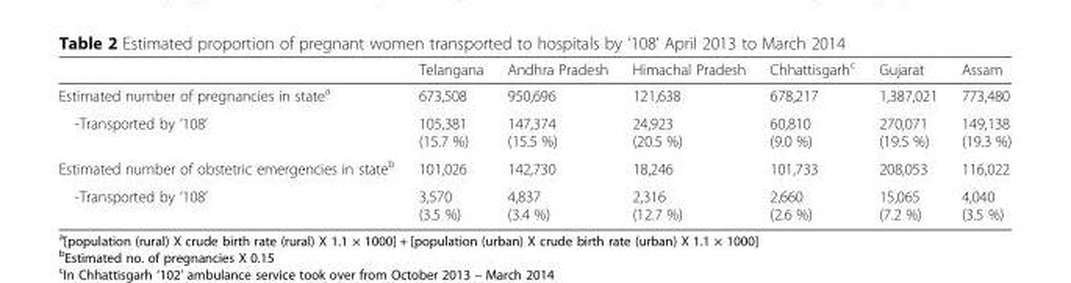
<table><thead><tr><td></td><td>Telangana</td><td>Andhra Pradesh</td><td>Himachal Pradesh</td><td>Chhattisgarh<sup>c</sup></td><td>Gujarat</td><td>Assam</td></tr></thead><tbody><tr><td>Estimated number of pregnancies in state<sup>a</sup></td><td>673,508</td><td>950,696</td><td>121,638</td><td>678,217</td><td>1,387,021</td><td>773,480</td></tr><tr><td>-Transported by ‘108’</td><td>105,381 (15.7 %)</td><td>147,374 (15.5 %)</td><td>24,923 (20.5 %)</td><td>60,810 (9.0 %)</td><td>270,071 (19.5 %)</td><td>149,138 (19.3 %)</td></tr><tr><td>Estimated number of obstetric emergencies in state<sup>b</sup></td><td>101,026</td><td>142,730</td><td>18,246</td><td>101,733</td><td>208,053</td><td>116,022</td></tr><tr><td>-Transported by ‘108’</td><td>3,570 (3.5 %)</td><td>4,837 (3.4 %)</td><td>2,316 (12.7 %)</td><td>2,660 (2.6 %)</td><td>15,065 (7.2 %)</td><td>4,040 (3.5 %)</td></tr></tbody></table>